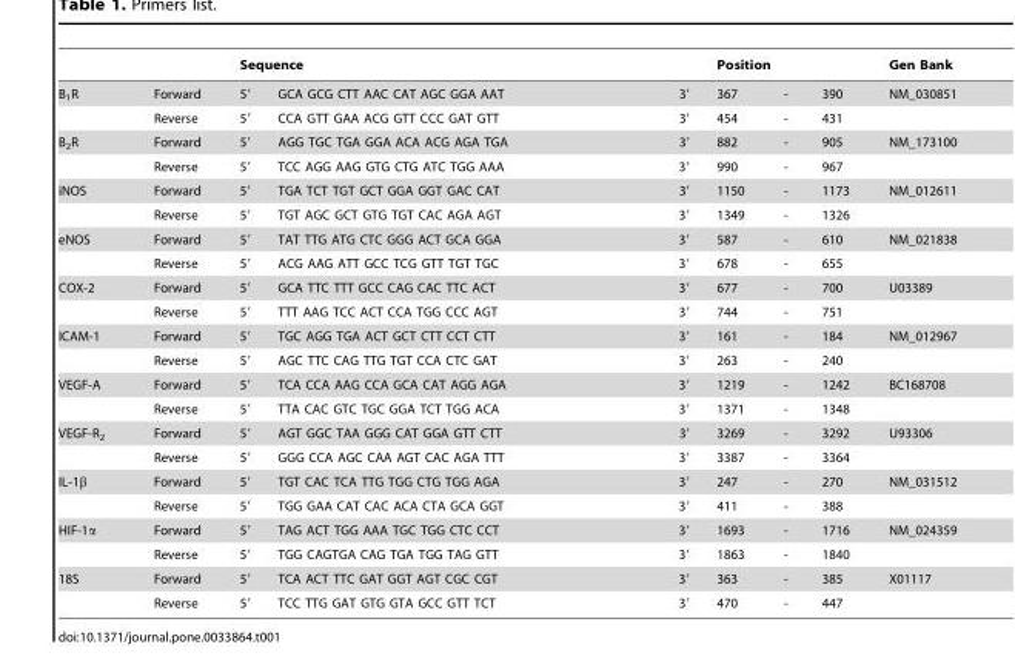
<table><thead><tr><td rowspan="2">B<sub>1</sub>R</td><td rowspan="2">Forward</td><td colspan="3">Sequence</td><td colspan="3">Position</td><td rowspan="2">Gen Bank NM_030851</td></tr><tr><td>5′</td><td>GCA GCG CTT AAC CAT AGC GGA AAT</td><td>3′</td><td>367</td><td>-</td><td>390</td></tr></thead><tbody><tr><td></td><td>Reverse</td><td>5′</td><td>CCA GTT GAA ACG GTT CCC GAT GTT</td><td>3′</td><td>454</td><td>-</td><td>431</td><td></td></tr><tr><td rowspan="2">B<sub>2</sub>R</td><td>Forward</td><td>5′</td><td>AGG TGC TGA GGA ACA ACG AGA TGA</td><td>3′</td><td>882</td><td>-</td><td>905</td><td>NM_173100</td></tr><tr><td>Reverse</td><td>5′</td><td>TCC AGG AAG GTG CTG ATC TGG AAA</td><td>3′</td><td>990</td><td>-</td><td>967</td><td></td></tr><tr><td rowspan="2">iNOS</td><td>Forward</td><td>5′</td><td>TGA TCT TGT GCT GGA GGT GAC CAT</td><td>3′</td><td>1150</td><td>-</td><td>1173</td><td>NM_012611</td></tr><tr><td>Reverse</td><td>5′</td><td>TGT AGC GCT GTG TGT CAC AGA AGT</td><td>3′</td><td>1349</td><td>-</td><td>1326</td><td></td></tr><tr><td rowspan="2">eNOS</td><td>Forward</td><td>5′</td><td>TAT TTG ATG CTC GGG ACT GCA GGA</td><td>3′</td><td>587</td><td>-</td><td>610</td><td>NM_021838</td></tr><tr><td>Reverse</td><td>5′</td><td>ACG AAG ATT GCC TCG GTT TGT TGC</td><td>3′</td><td>678</td><td>-</td><td>655</td><td></td></tr><tr><td rowspan="2">COX-2</td><td>Forward</td><td>5′</td><td>GCA TTC TTT GCC CAG CAC TTC ACT</td><td>3′</td><td>677</td><td>-</td><td>700</td><td>U03389</td></tr><tr><td>Reverse</td><td>5′</td><td>TTT AAG TCC ACT CCA TGG CCC AGT</td><td>3′</td><td>744</td><td>-</td><td>751</td><td></td></tr><tr><td rowspan="2">ICAM-1</td><td>Forward</td><td>5′</td><td>TGC AGG TGA ACT GCT CTT CCT CTT</td><td>3′</td><td>161</td><td>-</td><td>184</td><td>NM_012967</td></tr><tr><td>Reverse</td><td>5′</td><td>AGC TTC CAG TTG TGT CCA CTC GAT</td><td>3′</td><td>263</td><td>-</td><td>240</td><td></td></tr><tr><td rowspan="2">VEGF-A</td><td>Forward</td><td>5′</td><td>TCA CCA AAG CCA GCA CAT AGG AGA</td><td>3′</td><td>1219</td><td>-</td><td>1242</td><td>BC168708</td></tr><tr><td>Reverse</td><td>5′</td><td>TTA CAC GTC TGC GGA TCT TGG ACA</td><td>3′</td><td>1371</td><td>-</td><td>1348</td><td></td></tr><tr><td rowspan="2">VEGF-R<sub>2</sub></td><td>Forward</td><td>5′</td><td>AGT GGC TAA GGG CAT GGA GTT CTT</td><td>3′</td><td>3269</td><td>-</td><td>3292</td><td>U93306</td></tr><tr><td>Reverse</td><td>5′</td><td>GGG CCA AGC CAA AGT CAC AGA TTT</td><td>3′</td><td>3387</td><td>-</td><td>3364</td><td></td></tr><tr><td rowspan="2">IL-1β</td><td>Forward</td><td>5′</td><td>TGT CAC TCA TTG TGG CTG TGG AGA</td><td>3′</td><td>247</td><td>-</td><td>270</td><td>NM_031512</td></tr><tr><td>Reverse</td><td>5′</td><td>TGG GAA CAT CAC ACA CTA GCA GGT</td><td>3′</td><td>411</td><td>-</td><td>388</td><td></td></tr><tr><td rowspan="2">HIF-1α</td><td>Forward</td><td>5′</td><td>TAG ACT TGG AAA TGC TGG CTC CCT</td><td>3′</td><td>1693</td><td>-</td><td>1716</td><td>NM_024359</td></tr><tr><td>Reverse</td><td>5′</td><td>TGG CAGTGA CAG TGA TGG TAG GTT</td><td>3′</td><td>1863</td><td>-</td><td>1840</td><td></td></tr><tr><td rowspan="2">18S</td><td>Forward</td><td>5′</td><td>TCA ACT TTC GAT GGT AGT CGC CGT</td><td>3′</td><td>363</td><td>-</td><td>385</td><td>X01117</td></tr><tr><td>Reverse</td><td>5′</td><td>TCC TTG GAT GTG GTA GCC GTT TCT</td><td>3′</td><td>470</td><td>-</td><td>447</td><td></td></tr></tbody></table>